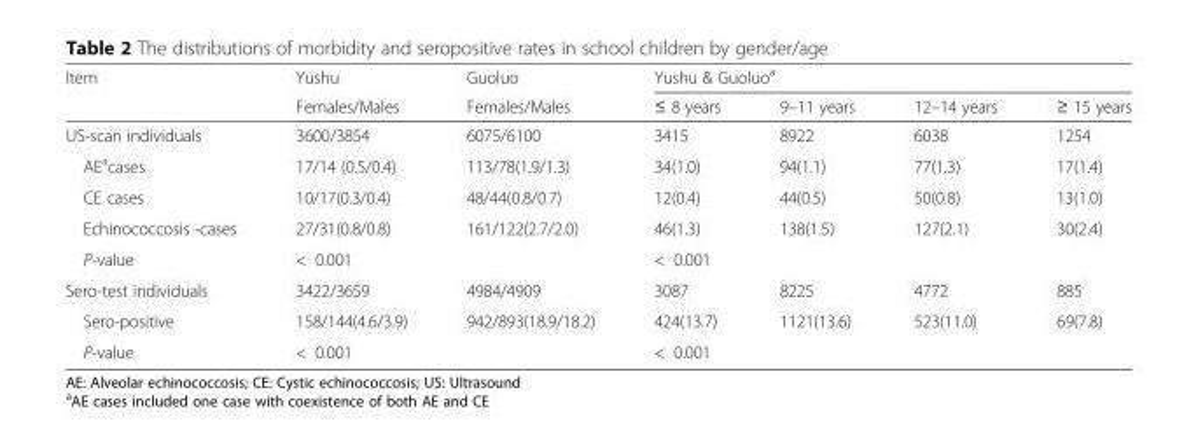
<table><thead><tr><td rowspan="2">Item</td><td rowspan="2">Yushu Females/Males</td><td rowspan="2">Guoluo Females/Males</td><td colspan="4">Yushu &amp; Guoluo<sup>a</sup></td></tr><tr><td>≤ 8 years</td><td>9–11 years</td><td>12–14 years</td><td>≥ 15 years</td></tr></thead><tbody><tr><td>US-scan individuals</td><td>3600/3854</td><td>6075/6100</td><td>3415</td><td>8922</td><td>6038</td><td>1254</td></tr><tr><td>AE<sup>a</sup>cases</td><td>17/14 (0.5/0.4)</td><td>113/78(1.9/1.3)</td><td>34(1.0)</td><td>94(1.1)</td><td>77(1.3)</td><td>17(1.4)</td></tr><tr><td>CE cases</td><td>10/17(0.3/0.4)</td><td>48/44(0.8/0.7)</td><td>12(0.4)</td><td>44(0.5)</td><td>50(0.8)</td><td>13(1.0)</td></tr><tr><td>Echinococcosis -cases</td><td>27/31(0.8/0.8)</td><td>161/122(2.7/2.0)</td><td>46(1.3)</td><td>138(1.5)</td><td>127(2.1)</td><td>30(2.4)</td></tr><tr><td>P-value</td><td colspan="2">&lt; 0.001</td><td colspan="4">&lt; 0.001</td></tr><tr><td>Sero-test individuals</td><td>3422/3659</td><td>4984/4909</td><td>3087</td><td>8225</td><td>4772</td><td>885</td></tr><tr><td>Sero-positive</td><td>158/144(4.6/3.9)</td><td>942/893(18.9/18.2)</td><td>424(13.7)</td><td>1121(13.6)</td><td>523(11.0)</td><td>69(7.8)</td></tr><tr><td>P-value</td><td colspan="2">&lt; 0.001</td><td colspan="4">&lt; 0.001</td></tr></tbody></table>